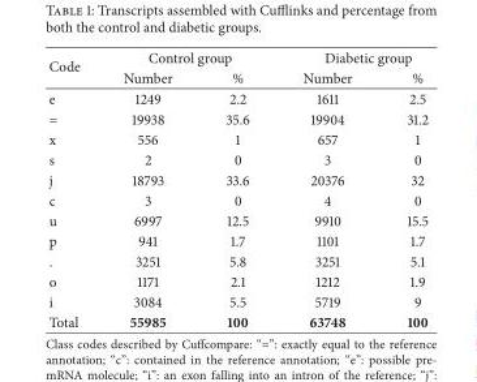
<table><thead><tr><td rowspan="2">Code</td><td colspan="2">Control group</td><td colspan="2">Diabetic group</td></tr><tr><td>Number</td><td>%</td><td>Number</td><td>%</td></tr></thead><tbody><tr><td>e</td><td>1249</td><td>2.2</td><td>1611</td><td>2.5</td></tr><tr><td>=</td><td>19938</td><td>35.6</td><td>19904</td><td>31.2</td></tr><tr><td>x</td><td>556</td><td>1</td><td>657</td><td>1</td></tr><tr><td>s</td><td>2</td><td>0</td><td>3</td><td>0</td></tr><tr><td>j</td><td>18793</td><td>33.6</td><td>20376</td><td>32</td></tr><tr><td>c</td><td>3</td><td>0</td><td>4</td><td>0</td></tr><tr><td>u</td><td>6997</td><td>12.5</td><td>9910</td><td>15.5</td></tr><tr><td>p</td><td>941</td><td>1.7</td><td>1101</td><td>1.7</td></tr><tr><td>.</td><td>3251</td><td>5.8</td><td>3251</td><td>5.1</td></tr><tr><td>o</td><td>1171</td><td>2.1</td><td>1212</td><td>1.9</td></tr><tr><td>i</td><td>3084</td><td>5.5</td><td>5719</td><td>9</td></tr><tr><td>Total</td><td>55985</td><td>100</td><td>63748</td><td>100</td></tr></tbody></table>